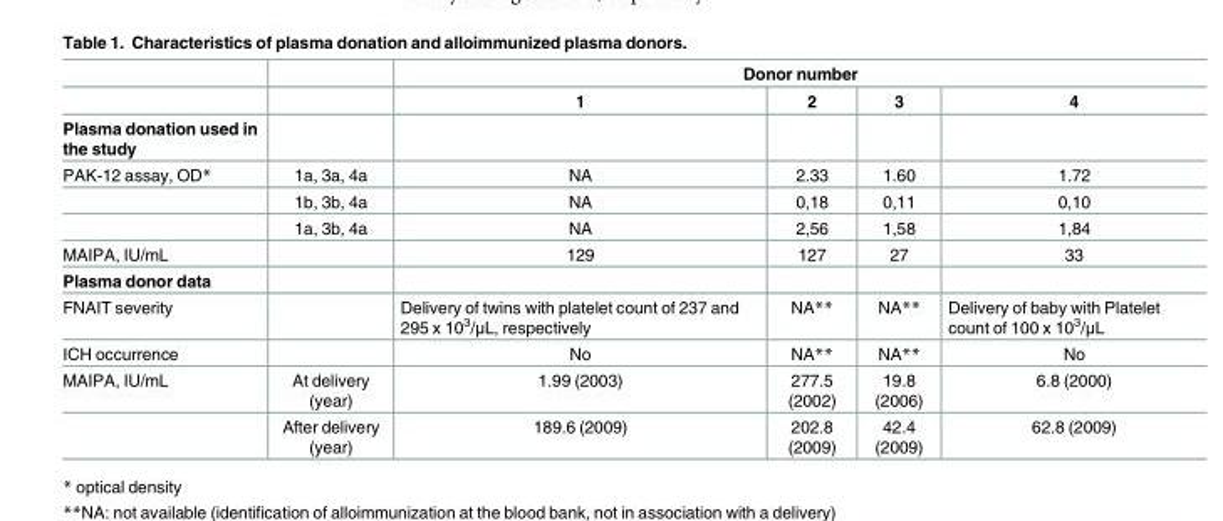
<table><thead><tr><td rowspan="2"></td><td rowspan="2"></td><td colspan="4">Donor number</td></tr><tr><td>1</td><td>2</td><td>3</td><td>4</td></tr></thead><tbody><tr><td colspan="6">Plasma donation used in the study</td></tr><tr><td rowspan="3">PAK-12 assay, OD*</td><td>1a, 3a, 4a</td><td>NA</td><td>2.33</td><td>1.60</td><td>1.72</td></tr><tr><td>1b, 3b, 4a</td><td>NA</td><td>0,18</td><td>0,11</td><td>0,10</td></tr><tr><td>1a, 3b, 4a</td><td>NA</td><td>2,56</td><td>1,58</td><td>1,84</td></tr><tr><td>MAIPA, IU/mL</td><td></td><td>129</td><td>127</td><td>27</td><td>33</td></tr><tr><td colspan="6">Plasma donor data</td></tr><tr><td>FNAIT severity</td><td></td><td>Delivery of twins with platelet count of 237 and 295 x 10<sup>3</sup>/μL, respectively</td><td>NA**</td><td>NA**</td><td>Delivery of baby with Platelet count of 100 x 10<sup>3</sup>/μL</td></tr><tr><td>ICH occurrence</td><td></td><td>No</td><td>NA**</td><td>NA**</td><td>No</td></tr><tr><td rowspan="2">MAIPA, IU/mL</td><td>At delivery (year)</td><td>1.99 (2003)</td><td>277.5 (2002)</td><td>19.8 (2006)</td><td>6.8 (2000)</td></tr><tr><td>After delivery (year)</td><td>189.6 (2009)</td><td>202.8 (2009)</td><td>42.4 (2009)</td><td>62.8 (2009)</td></tr></tbody></table>